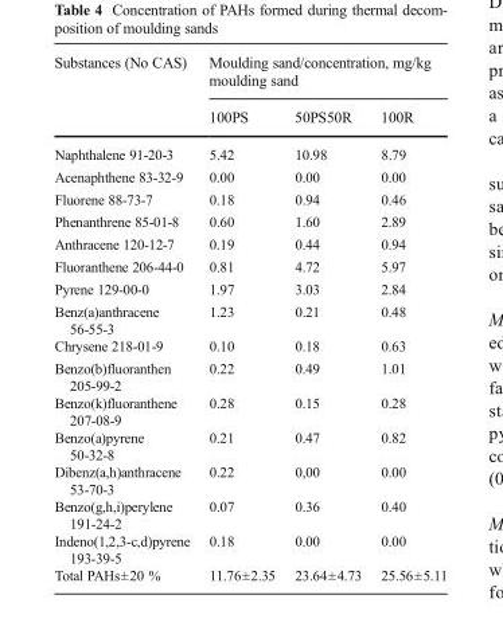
<table><thead><tr><td rowspan="2">Substances (No CAS)</td><td colspan="3">Moulding sand/concentration, mg/kg moulding sand</td></tr><tr><td>100PS</td><td>50PS50R</td><td>100R</td></tr></thead><tbody><tr><td>Naphthalene 91-20-3</td><td>5.42</td><td>10.98</td><td>8.79</td></tr><tr><td>Acenaphthene 83-32-9</td><td>0.00</td><td>0.00</td><td>0.00</td></tr><tr><td>Fluorene 88-73-7</td><td>0.18</td><td>0.94</td><td>0.46</td></tr><tr><td>Phenanthrene 85-01-8</td><td>0.60</td><td>1.60</td><td>2.89</td></tr><tr><td>Anthracene 120-12-7</td><td>0.19</td><td>0.44</td><td>0.94</td></tr><tr><td>Fluoranthene 206-44-0</td><td>0.81</td><td>4.72</td><td>5.97</td></tr><tr><td>Pyrene 129-00-0</td><td>1.97</td><td>3.03</td><td>2.84</td></tr><tr><td>Benz(a)anthracene 56-55-3</td><td>1.23</td><td>0.21</td><td>0.48</td></tr><tr><td>Chrysene 218-01-9</td><td>0.10</td><td>0.18</td><td>0.63</td></tr><tr><td>Benzo(b)fluoranthen 205-99-2</td><td>0.22</td><td>0.49</td><td>1.01</td></tr><tr><td>Benzo(k)fluoranthene 207-08-9</td><td>0.28</td><td>0.15</td><td>0.28</td></tr><tr><td>Benzo(a)pyrene 50-32-8</td><td>0.21</td><td>0.47</td><td>0.82</td></tr><tr><td>Dibenz(a,h)anthracene 53-70-3</td><td>0.22</td><td>0,00</td><td>0.00</td></tr><tr><td>Benzo(g,h,i)perylene 191-24-2</td><td>0.07</td><td>0.36</td><td>0.40</td></tr><tr><td>Indeno(1,2,3-c,d)pyrene 193-39-5</td><td>0.18</td><td>0.00</td><td>0.00</td></tr><tr><td>Total PAHs±20 %</td><td>11.76±2.35</td><td>23.64±4.73</td><td>25.56±5.11</td></tr></tbody></table>